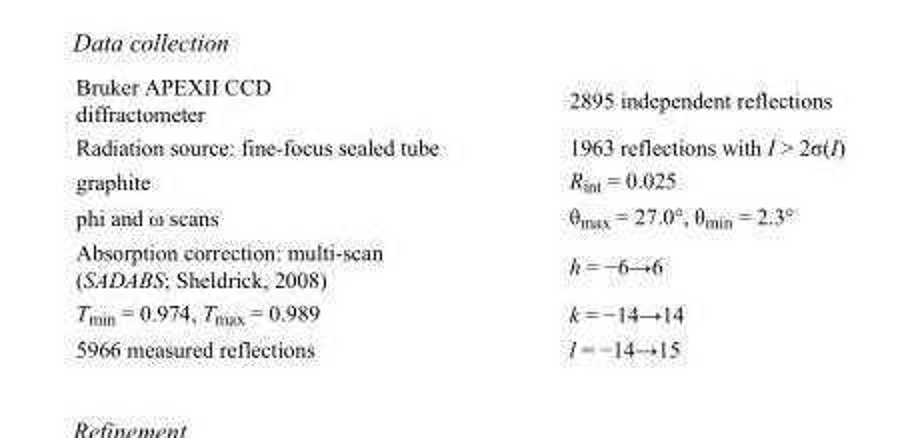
<table><tbody><tr><td>Bruker APEXII CCD diffractometer</td><td>2895 independent reflections</td></tr><tr><td>Radiation source: fine-focus sealed tube</td><td>1963 reflections with I &gt; 2σ(I)</td></tr><tr><td>graphite</td><td>R<sub>int</sub> = 0.025</td></tr><tr><td>phi and ω scans</td><td>θ<sub>max</sub> = 27.0°, θ<sub>min</sub> = 2.3°</td></tr><tr><td>Absorption correction: multi-scan (SADABS; Sheldrick, 2008)</td><td>h = −6→6</td></tr><tr><td>T<sub>min</sub> = 0.974, T<sub>max</sub> = 0.989</td><td>k = −14→14</td></tr><tr><td>5966 measured reflections</td><td>l = −14→15</td></tr></tbody></table>